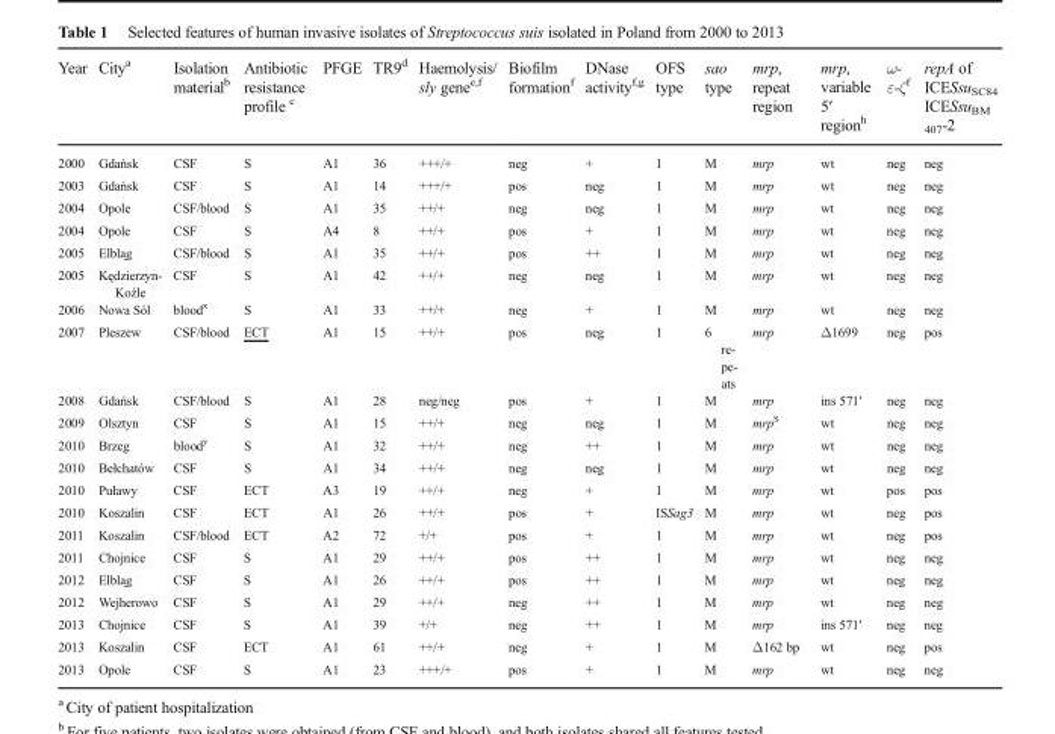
<table><thead><tr><td>Year</td><td>City<sup>a</sup></td><td>Isolation material<sup>b</sup></td><td>Antibiotic resistance profile <sup>c</sup></td><td>PFGE</td><td>TR9<sup>d</sup></td><td>Haemolysis/ sly gene<sup>e,f</sup></td><td>Biofilm formation<sup>f</sup></td><td>DNase activity<sup>f,g</sup></td><td>OFS type</td><td>sao type</td><td>mrp, repeat region</td><td>mrp, variable 5′ region<sup>h</sup></td><td>ω- ε-ζ<sup>f</sup></td><td>repA of ICESsu<sub>SC84</sub> ICESsu<sub>BM 407</sub>-2</td></tr></thead><tbody><tr><td>2000</td><td>Gdańsk</td><td>CSF</td><td>S</td><td>A1</td><td>36</td><td>+++/+</td><td>neg</td><td>+</td><td>1</td><td>M</td><td>mrp</td><td>wt</td><td>neg</td><td>neg</td></tr><tr><td>2003</td><td>Gdańsk</td><td>CSF</td><td>S</td><td>A1</td><td>14</td><td>+++/+</td><td>pos</td><td>neg</td><td>1</td><td>M</td><td>mrp</td><td>wt</td><td>neg</td><td>neg</td></tr><tr><td>2004</td><td>Opole</td><td>CSF/blood</td><td>S</td><td>A1</td><td>35</td><td>++/+</td><td>neg</td><td>neg</td><td>1</td><td>M</td><td>mrp</td><td>wt</td><td>neg</td><td>neg</td></tr><tr><td>2004</td><td>Opole</td><td>CSF</td><td>S</td><td>A4</td><td>8</td><td>++/+</td><td>pos</td><td>+</td><td>1</td><td>M</td><td>mrp</td><td>wt</td><td>neg</td><td>neg</td></tr><tr><td>2005</td><td>Elbląg</td><td>CSF/blood</td><td>S</td><td>A1</td><td>35</td><td>++/+</td><td>pos</td><td>++</td><td>1</td><td>M</td><td>mrp</td><td>wt</td><td>neg</td><td>neg</td></tr><tr><td>2005</td><td>Kędzierzyn- Koźle</td><td>CSF</td><td>S</td><td>A1</td><td>42</td><td>++/+</td><td>neg</td><td>neg</td><td>1</td><td>M</td><td>mrp</td><td>wt</td><td>neg</td><td>neg</td></tr><tr><td>2006</td><td>Nowa Sól</td><td>blood<sup>x</sup></td><td>S</td><td>A1</td><td>33</td><td>++/+</td><td>neg</td><td>+</td><td>1</td><td>M</td><td>mrp</td><td>wt</td><td>neg</td><td>neg</td></tr><tr><td>2007</td><td>Pleszew</td><td>CSF/blood</td><td>ECT</td><td>A1</td><td>15</td><td>++/+</td><td>pos</td><td>neg</td><td>1</td><td>6 re- pe- ats</td><td>mrp</td><td>Δ1699</td><td>neg</td><td>pos</td></tr><tr><td>2008</td><td>Gdańsk</td><td>CSF/blood</td><td>S</td><td>A1</td><td>28</td><td>neg/neg</td><td>pos</td><td>+</td><td>1</td><td>M</td><td>mrp</td><td>ins 571′</td><td>neg</td><td>neg</td></tr><tr><td>2009</td><td>Olsztyn</td><td>CSF</td><td>S</td><td>A1</td><td>15</td><td>++/+</td><td>neg</td><td>neg</td><td>1</td><td>M</td><td>mrp<sup>S</sup></td><td>wt</td><td>neg</td><td>neg</td></tr><tr><td>2010</td><td>Brzeg</td><td>blood<sup>y</sup></td><td>S</td><td>A1</td><td>32</td><td>++/+</td><td>neg</td><td>++</td><td>1</td><td>M</td><td>mrp</td><td>wt</td><td>neg</td><td>neg</td></tr><tr><td>2010</td><td>Bełchatów</td><td>CSF</td><td>S</td><td>A1</td><td>34</td><td>++/+</td><td>neg</td><td>neg</td><td>1</td><td>M</td><td>mrp</td><td>wt</td><td>neg</td><td>neg</td></tr><tr><td>2010</td><td>Puławy</td><td>CSF</td><td>ECT</td><td>A3</td><td>19</td><td>++/+</td><td>neg</td><td>+</td><td>1</td><td>M</td><td>mrp</td><td>wt</td><td>pos</td><td>pos</td></tr><tr><td>2010</td><td>Koszalin</td><td>CSF</td><td>ECT</td><td>A1</td><td>26</td><td>++/+</td><td>pos</td><td>+</td><td>ISSag3</td><td>M</td><td>mrp</td><td>wt</td><td>neg</td><td>pos</td></tr><tr><td>2011</td><td>Koszalin</td><td>CSF/blood</td><td>ECT</td><td>A2</td><td>72</td><td>+/+</td><td>pos</td><td>+</td><td>1</td><td>M</td><td>mrp</td><td>wt</td><td>neg</td><td>pos</td></tr><tr><td>2011</td><td>Chojnice</td><td>CSF</td><td>S</td><td>A1</td><td>29</td><td>++/+</td><td>pos</td><td>++</td><td>1</td><td>M</td><td>mrp</td><td>wt</td><td>neg</td><td>neg</td></tr><tr><td>2012</td><td>Elbląg</td><td>CSF</td><td>S</td><td>A1</td><td>26</td><td>++/+</td><td>pos</td><td>++</td><td>1</td><td>M</td><td>mrp</td><td>wt</td><td>neg</td><td>neg</td></tr><tr><td>2012</td><td>Wejherowo</td><td>CSF</td><td>S</td><td>A1</td><td>29</td><td>++/+</td><td>neg</td><td>++</td><td>1</td><td>M</td><td>mrp</td><td>wt</td><td>neg</td><td>neg</td></tr><tr><td>2013</td><td>Chojnice</td><td>CSF</td><td>S</td><td>A1</td><td>39</td><td>+/+</td><td>neg</td><td>++</td><td>1</td><td>M</td><td>mrp</td><td>ins 571′</td><td>neg</td><td>neg</td></tr><tr><td>2013</td><td>Koszalin</td><td>CSF</td><td>ECT</td><td>A1</td><td>61</td><td>++/+</td><td>neg</td><td>+</td><td>1</td><td>M</td><td>Δ162 bp</td><td>wt</td><td>neg</td><td>pos</td></tr><tr><td>2013</td><td>Opole</td><td>CSF</td><td>S</td><td>A1</td><td>23</td><td>+++/+</td><td>pos</td><td>+</td><td>1</td><td>M</td><td>mrp</td><td>wt</td><td>neg</td><td>neg</td></tr></tbody></table>